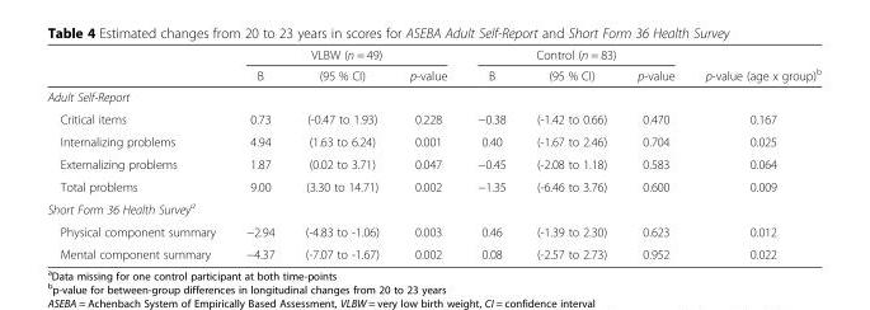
<table><thead><tr><td rowspan="2"></td><td colspan="3">VLBW (n = 49)</td><td colspan="3">Control (n = 83)</td><td rowspan="2">p-value (age x group)<sup>b</sup></td></tr><tr><td>B</td><td>(95 % CI)</td><td>p-value</td><td>B</td><td>(95 % CI)</td><td>p-value</td></tr></thead><tbody><tr><td colspan="8">Adult Self-Report</td></tr><tr><td>Critical items</td><td>0.73</td><td>(-0.47 to 1.93)</td><td>0.228</td><td>−0.38</td><td>(-1.42 to 0.66)</td><td>0.470</td><td>0.167</td></tr><tr><td>Internalizing problems</td><td>4.94</td><td>(1.63 to 6.24)</td><td>0.001</td><td>0.40</td><td>(-1.67 to 2.46)</td><td>0.704</td><td>0.025</td></tr><tr><td>Externalizing problems</td><td>1.87</td><td>(0.02 to 3.71)</td><td>0.047</td><td>−0.45</td><td>(-2.08 to 1.18)</td><td>0.583</td><td>0.064</td></tr><tr><td>Total problems</td><td>9.00</td><td>(3.30 to 14.71)</td><td>0.002</td><td>−1.35</td><td>(-6.46 to 3.76)</td><td>0.600</td><td>0.009</td></tr><tr><td colspan="8">Short Form 36 Health Survey<sup>a</sup></td></tr><tr><td>Physical component summary</td><td>−2.94</td><td>(-4.83 to -1.06)</td><td>0.003</td><td>0.46</td><td>(-1.39 to 2.30)</td><td>0.623</td><td>0.012</td></tr><tr><td>Mental component summary</td><td>−4.37</td><td>(-7.07 to -1.67)</td><td>0.002</td><td>0.08</td><td>(-2.57 to 2.73)</td><td>0.952</td><td>0.022</td></tr></tbody></table>